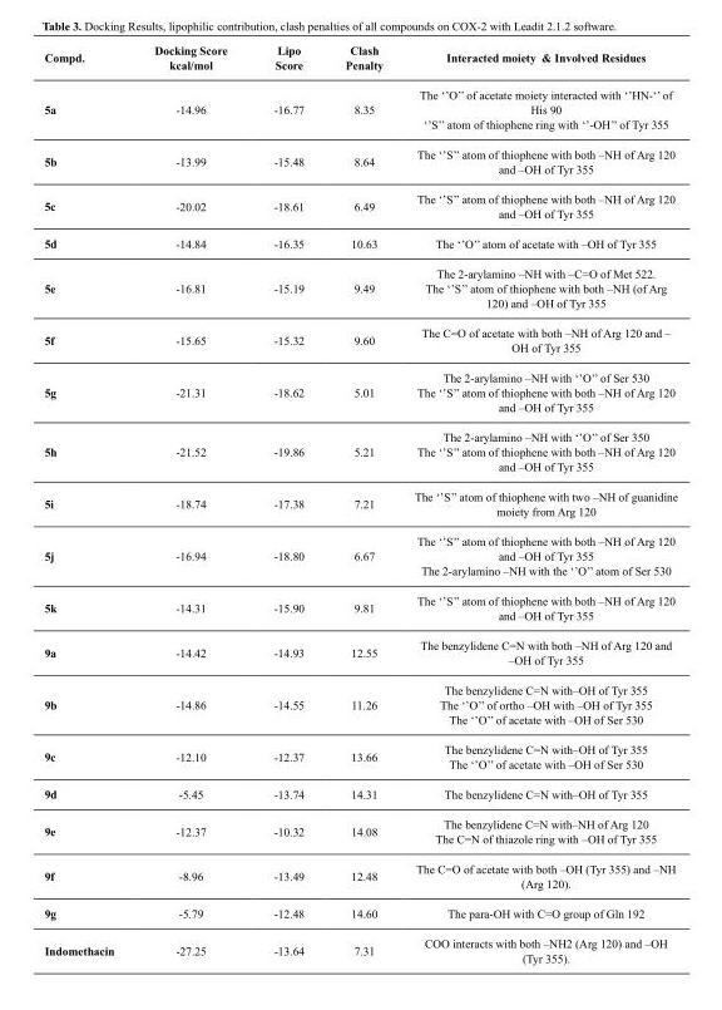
<table><thead><tr><td>Compd.</td><td>Docking Score kcal/mol</td><td>Lipo Score</td><td>Clash Penalty</td><td>Interacted moiety &amp; Involved Residues</td></tr></thead><tbody><tr><td>5a</td><td>-14.96</td><td>-16.77</td><td>8.35</td><td>The ‘’O’’ of acetate moiety interacted with ‘’HN-‘’ of His 90 ‘’S’’ atom of thiophene ring with ‘’-OH’’ of Tyr 355</td></tr><tr><td>5b</td><td>-13.99</td><td>-15.48</td><td>8.64</td><td>The ‘’S’’ atom of thiophene with both –NH of Arg 120 and –OH of Tyr 355</td></tr><tr><td>5c</td><td>-20.02</td><td>-18.61</td><td>6.49</td><td>The ‘’S’’ atom of thiophene with both –NH of Arg 120 and –OH of Tyr 355</td></tr><tr><td>5d</td><td>-14.84</td><td>-16.35</td><td>10.63</td><td>The ‘’O’’ atom of acetate with –OH of Tyr 355</td></tr><tr><td>5e</td><td>-16.81</td><td>-15.19</td><td>9.49</td><td>The 2-arylamino –NH with –C=O of Met 522. The ‘’S’’ atom of thiophene with both –NH (of Arg 120) and –OH of Tyr 355</td></tr><tr><td>5f</td><td>-15.65</td><td>-15.32</td><td>9.60</td><td>The C=O of acetate with both –NH of Arg 120 and – OH of Tyr 355</td></tr><tr><td>5g</td><td>-21.31</td><td>-18.62</td><td>5.01</td><td>The 2-arylamino –NH with ‘’O’’ of Ser 530 The ‘’S’’ atom of thiophene with both –NH of Arg 120 and –OH of Tyr 355</td></tr><tr><td>5h</td><td>-21.52</td><td>-19.86</td><td>5.21</td><td>The 2-arylamino –NH with ‘’O’’ of Ser 350 The ‘’S’’ atom of thiophene with both –NH of Arg 120 and –OH of Tyr 355</td></tr><tr><td>5i</td><td>-18.74</td><td>-17.38</td><td>7.21</td><td>The ‘’S’’ atom of thiophene with two –NH of guanidine moiety from Arg 120</td></tr><tr><td>5j</td><td>-16.94</td><td>-18.80</td><td>6.67</td><td>The ‘’S’’ atom of thiophene with both –NH of Arg 120 and –OH of Tyr 355 The 2-arylamino –NH with the ‘’O’’ atom of Ser 530</td></tr><tr><td>5k</td><td>-14.31</td><td>-15.90</td><td>9.81</td><td>The ‘’S’’ atom of thiophene with both –NH of Arg 120 and –OH of Tyr 355</td></tr><tr><td>9a</td><td>-14.42</td><td>-14.93</td><td>12.55</td><td>The benzylidene C=N with both –NH of Arg 120 and –OH of Tyr 355</td></tr><tr><td>9b</td><td>-14.86</td><td>-14.55</td><td>11.26</td><td>The benzylidene C=N with–OH of Tyr 355 The ‘’O’’ of ortho –OH with –OH of Tyr 355 The ‘’O’’ of acetate with –OH of Ser 530</td></tr><tr><td>9c</td><td>-12.10</td><td>-12.37</td><td>13.66</td><td>The benzylidene C=N with–OH of Tyr 355 The ‘’O’’ of acetate with –OH of Ser 530</td></tr><tr><td>9d</td><td>-5.45</td><td>-13.74</td><td>14.31</td><td>The benzylidene C=N with–OH of Tyr 355</td></tr><tr><td>9e</td><td>-12.37</td><td>-10.32</td><td>14.08</td><td>The benzylidene C=N with–NH of Arg 120 The C=N of thiazole ring with –OH of Tyr 355</td></tr><tr><td>9f</td><td>-8.96</td><td>-13.49</td><td>12.48</td><td>The C=O of acetate with both –OH (Tyr 355) and –NH (Arg 120).</td></tr><tr><td>9g</td><td>-5.79</td><td>-12.48</td><td>14.60</td><td>The para-OH with C=O group of Gln 192</td></tr><tr><td>Indomethacin</td><td>-27.25</td><td>-13.64</td><td>7.31</td><td>COO interacts with both –NH2 (Arg 120) and –OH (Tyr 355).</td></tr></tbody></table>